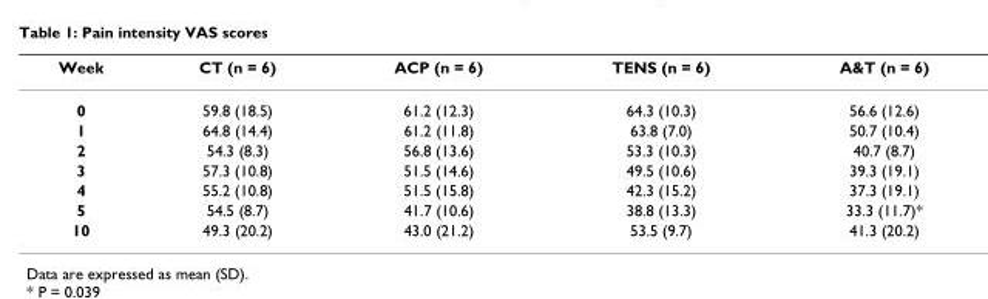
<table><thead><tr><td>Week</td><td>CT (n = 6)</td><td>ACP (n = 6)</td><td>TENS (n = 6)</td><td>A&amp;T (n = 6)</td></tr></thead><tbody><tr><td>0</td><td>59.8 (18.5)</td><td>61.2 (12.3)</td><td>64.3 (10.3)</td><td>56.6 (12.6)</td></tr><tr><td>1</td><td>64.8 (14.4)</td><td>61.2 (11.8)</td><td>63.8 (7.0)</td><td>50.7 (10.4)</td></tr><tr><td>2</td><td>54.3 (8.3)</td><td>56.8 (13.6)</td><td>53.3 (10.3)</td><td>40.7 (8.7)</td></tr><tr><td>3</td><td>57.3 (10.8)</td><td>51.5 (14.6)</td><td>49.5 (10.6)</td><td>39.3 (19.1)</td></tr><tr><td>4</td><td>55.2 (10.8)</td><td>51.5 (15.8)</td><td>42.3 (15.2)</td><td>37.3 (19.1)</td></tr><tr><td>5</td><td>54.5 (8.7)</td><td>41.7 (10.6)</td><td>38.8 (13.3)</td><td>33.3 (11.7)*</td></tr><tr><td>10</td><td>49.3 (20.2)</td><td>43.0 (21.2)</td><td>53.5 (9.7)</td><td>41.3 (20.2)</td></tr></tbody></table>